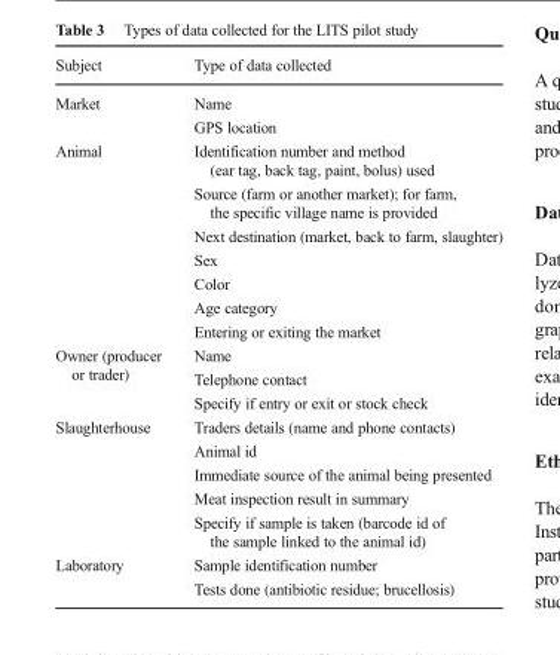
<table><thead><tr><td>Subject</td><td>Type of data collected</td></tr></thead><tbody><tr><td rowspan="2">Market</td><td>Name</td></tr><tr><td>GPS location</td></tr><tr><td rowspan="7">Animal</td><td>Identification number and method (ear tag, back tag, paint, bolus) used</td></tr><tr><td>Source (farm or another market); for farm, the specific village name is provided</td></tr><tr><td>Next destination (market, back to farm, slaughter)</td></tr><tr><td>Sex</td></tr><tr><td>Color</td></tr><tr><td>Age category</td></tr><tr><td>Entering or exiting the market</td></tr><tr><td rowspan="3">Owner (producer or trader)</td><td>Name</td></tr><tr><td>Telephone contact</td></tr><tr><td>Specify if entry or exit or stock check</td></tr><tr><td rowspan="5">Slaughterhouse</td><td>Traders details (name and phone contacts)</td></tr><tr><td>Animal id</td></tr><tr><td>Immediate source of the animal being presented</td></tr><tr><td>Meat inspection result in summary</td></tr><tr><td>Specify if sample is taken (barcode id of the sample linked to the animal id)</td></tr><tr><td rowspan="2">Laboratory</td><td>Sample identification number</td></tr><tr><td>Tests done (antibiotic residue; brucellosis)</td></tr></tbody></table>